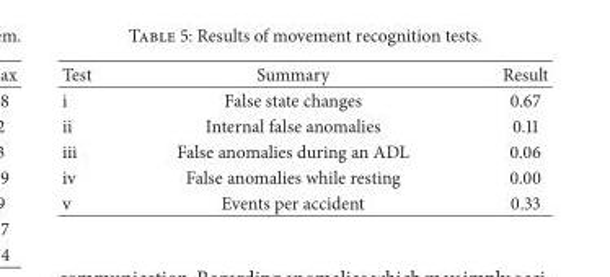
<table><thead><tr><td>Test</td><td>Summary</td><td>Result</td></tr></thead><tbody><tr><td>i</td><td>False state changes</td><td>0.67</td></tr><tr><td>ii</td><td>Internal false anomalies</td><td>0.11</td></tr><tr><td>iii</td><td>False anomalies during an ADL</td><td>0.06</td></tr><tr><td>iv</td><td>False anomalies while resting</td><td>0.00</td></tr><tr><td>v</td><td>Events per accident</td><td>0.33</td></tr></tbody></table>